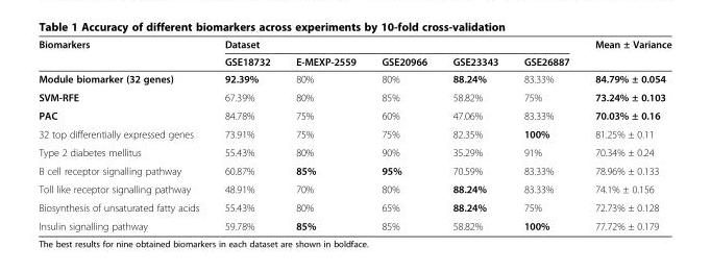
<table><thead><tr><td rowspan="2">Biomarkers</td><td colspan="5">Dataset</td><td rowspan="2">Mean ± Variance</td></tr><tr><td>GSE18732</td><td>E-MEXP-2559</td><td>GSE20966</td><td>GSE23343</td><td>GSE26887</td></tr></thead><tbody><tr><td>Module biomarker (32 genes)</td><td>92.39%</td><td>80%</td><td>80%</td><td>88.24%</td><td>83.33%</td><td>84.79% ± 0.054</td></tr><tr><td>SVM-RFE</td><td>67.39%</td><td>80%</td><td>85%</td><td>58.82%</td><td>75%</td><td>73.24% ± 0.103</td></tr><tr><td>PAC</td><td>84.78%</td><td>75%</td><td>60%</td><td>47.06%</td><td>83.33%</td><td>70.03% ± 0.16</td></tr><tr><td>32 top differentially expressed genes</td><td>73.91%</td><td>75%</td><td>75%</td><td>82.35%</td><td>100%</td><td>81.25% ± 0.11</td></tr><tr><td>Type 2 diabetes mellitus</td><td>55.43%</td><td>80%</td><td>90%</td><td>35.29%</td><td>91%</td><td>70.34% ± 0.24</td></tr><tr><td>B cell receptor signalling pathway</td><td>60.87%</td><td>85%</td><td>95%</td><td>70.59%</td><td>83.33%</td><td>78.96% ± 0.133</td></tr><tr><td>Toll like receptor signalling pathway</td><td>48.91%</td><td>70%</td><td>80%</td><td>88.24%</td><td>83.33%</td><td>74.1% ± 0.156</td></tr><tr><td>Biosynthesis of unsaturated fatty acids</td><td>55.43%</td><td>80%</td><td>65%</td><td>88.24%</td><td>75%</td><td>72.73% ± 0.128</td></tr><tr><td>Insulin signalling pathway</td><td>59.78%</td><td>85%</td><td>85%</td><td>58.82%</td><td>100%</td><td>77.72% ± 0.179</td></tr></tbody></table>